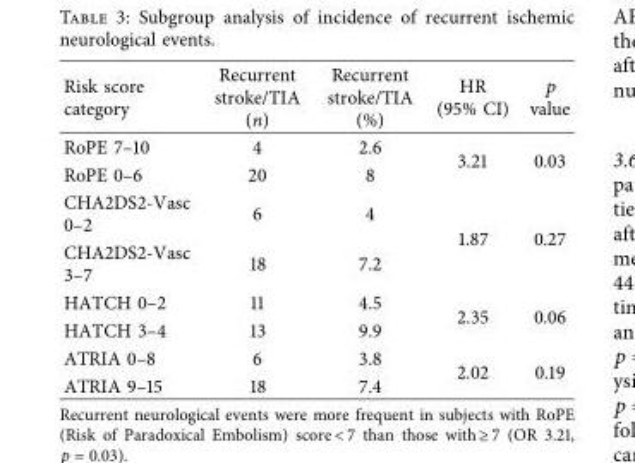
<table><thead><tr><td>Risk score category</td><td>Recurrent stroke/TIA (n)</td><td>Recurrent stroke/TIA (%)</td><td>HR (95% CI)</td><td>p value</td></tr></thead><tbody><tr><td>RoPE 7–10</td><td>4</td><td>2.6</td><td rowspan="2">3.21</td><td rowspan="2">0.03</td></tr><tr><td>RoPE 0–6</td><td>20</td><td>8</td></tr><tr><td>CHA2DS2-Vasc 0–2</td><td>6</td><td>4</td><td rowspan="2">1.87</td><td rowspan="2">0.27</td></tr><tr><td>CHA2DS2-Vasc 3–7</td><td>18</td><td>7.2</td></tr><tr><td>HATCH 0–2</td><td>11</td><td>4.5</td><td rowspan="2">2.35</td><td rowspan="2">0.06</td></tr><tr><td>HATCH 3–4</td><td>13</td><td>9.9</td></tr><tr><td>ATRIA 0–8</td><td>6</td><td>3.8</td><td rowspan="2">2.02</td><td rowspan="2">0.19</td></tr><tr><td>ATRIA 9–15</td><td>18</td><td>7.4</td></tr></tbody></table>